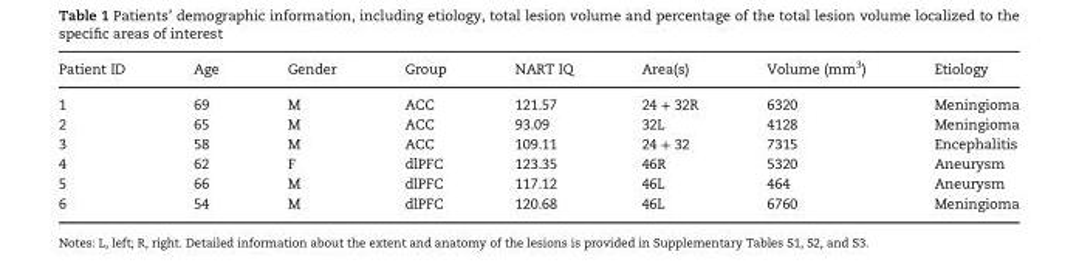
<table><thead><tr><td>Patient ID</td><td>Age</td><td>Gender</td><td>Group</td><td>NART IQ</td><td>Area(s)</td><td>Volume (mm<sup>3</sup>)</td><td>Etiology</td></tr></thead><tbody><tr><td>1</td><td>69</td><td>M</td><td>ACC</td><td>121.57</td><td>24 + 32R</td><td>6320</td><td>Meningioma</td></tr><tr><td>2</td><td>65</td><td>M</td><td>ACC</td><td>93.09</td><td>32L</td><td>4128</td><td>Meningioma</td></tr><tr><td>3</td><td>58</td><td>M</td><td>ACC</td><td>109.11</td><td>24 + 32</td><td>7315</td><td>Encephalitis</td></tr><tr><td>4</td><td>62</td><td>F</td><td>dlPFC</td><td>123.35</td><td>46R</td><td>5320</td><td>Aneurysm</td></tr><tr><td>5</td><td>66</td><td>M</td><td>dlPFC</td><td>117.12</td><td>46L</td><td>464</td><td>Aneurysm</td></tr><tr><td>6</td><td>54</td><td>M</td><td>dlPFC</td><td>120.68</td><td>46L</td><td>6760</td><td>Meningioma</td></tr></tbody></table>